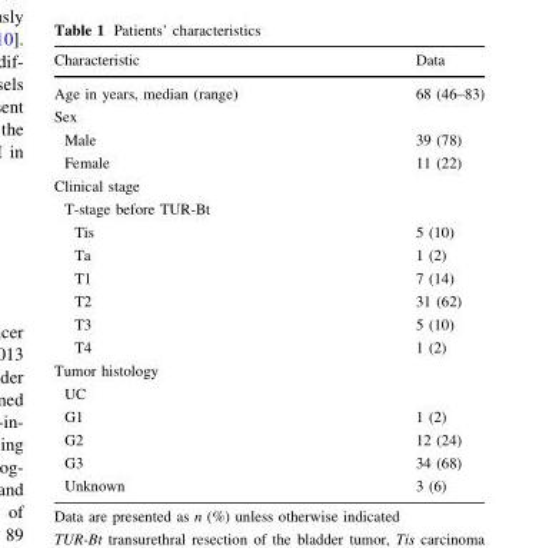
<table><thead><tr><td>Characteristic</td><td>Data</td></tr></thead><tbody><tr><td>Age in years, median (range)</td><td>68 (46–83)</td></tr><tr><td colspan="2">Sex</td></tr><tr><td>Male</td><td>39 (78)</td></tr><tr><td>Female</td><td>11 (22)</td></tr><tr><td colspan="2">Clinical stage</td></tr><tr><td colspan="2">T-stage before TUR-Bt</td></tr><tr><td>Tis</td><td>5 (10)</td></tr><tr><td>Ta</td><td>1 (2)</td></tr><tr><td>T1</td><td>7 (14)</td></tr><tr><td>T2</td><td>31 (62)</td></tr><tr><td>T3</td><td>5 (10)</td></tr><tr><td>T4</td><td>1 (2)</td></tr><tr><td colspan="2">Tumor histology</td></tr><tr><td colspan="2">UC</td></tr><tr><td>G1</td><td>1 (2)</td></tr><tr><td>G2</td><td>12 (24)</td></tr><tr><td>G3</td><td>34 (68)</td></tr><tr><td>Unknown</td><td>3 (6)</td></tr></tbody></table>